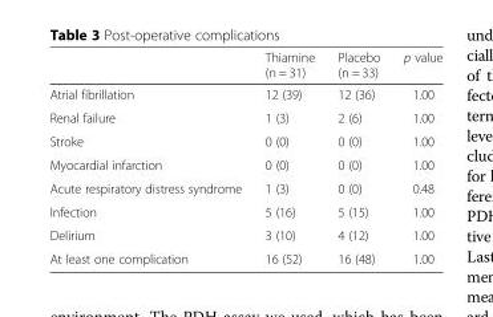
<table><thead><tr><td></td><td>Thiamine (n = 31)</td><td>Placebo (n = 33)</td><td>p value</td></tr></thead><tbody><tr><td>Atrial fibrillation</td><td>12 (39)</td><td>12 (36)</td><td>1.00</td></tr><tr><td>Renal failure</td><td>1 (3)</td><td>2 (6)</td><td>1.00</td></tr><tr><td>Stroke</td><td>0 (0)</td><td>0 (0)</td><td>1.00</td></tr><tr><td>Myocardial infarction</td><td>0 (0)</td><td>0 (0)</td><td>1.00</td></tr><tr><td>Acute respiratory distress syndrome</td><td>1 (3)</td><td>0 (0)</td><td>0.48</td></tr><tr><td>Infection</td><td>5 (16)</td><td>5 (15)</td><td>1.00</td></tr><tr><td>Delirium</td><td>3 (10)</td><td>4 (12)</td><td>1.00</td></tr><tr><td>At least one complication</td><td>16 (52)</td><td>16 (48)</td><td>1.00</td></tr></tbody></table>